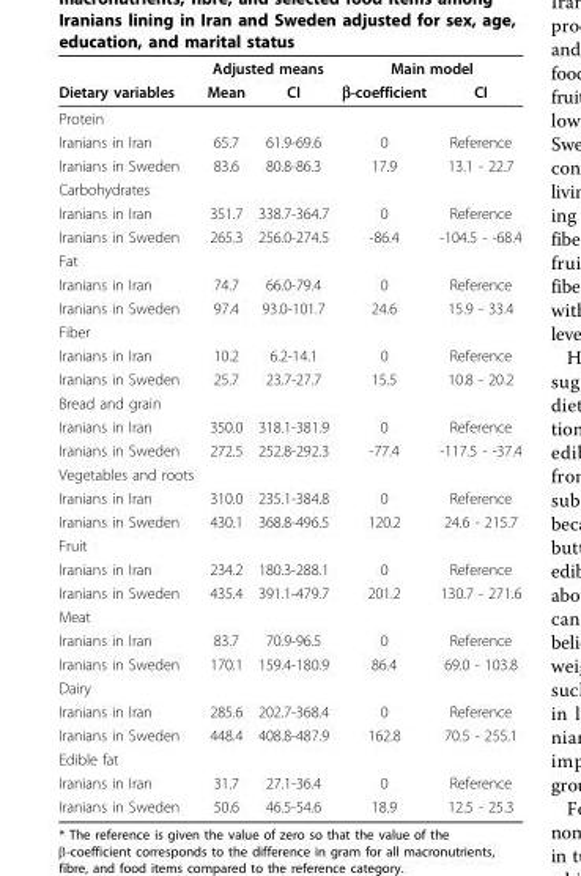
<table><thead><tr><td rowspan="2">Dietary variables</td><td colspan="2">Adjusted means</td><td colspan="2">Main model</td></tr><tr><td>Mean</td><td>CI</td><td>β-coefficient</td><td>CI</td></tr></thead><tbody><tr><td colspan="5">Protein</td></tr><tr><td>Iranians in Iran</td><td>65.7</td><td>61.9-69.6</td><td>0</td><td>Reference</td></tr><tr><td>Iranians in Sweden</td><td>83.6</td><td>80.8-86.3</td><td>17.9</td><td>13.1 - 22.7</td></tr><tr><td colspan="5">Carbohydrates</td></tr><tr><td>Iranians in Iran</td><td>351.7</td><td>338.7-364.7</td><td>0</td><td>Reference</td></tr><tr><td>Iranians in Sweden</td><td>265.3</td><td>256.0-274.5</td><td>-86.4</td><td>-104.5 - -68.4</td></tr><tr><td colspan="5">Fat</td></tr><tr><td>Iranians in Iran</td><td>74.7</td><td>66.0-79.4</td><td>0</td><td>Reference</td></tr><tr><td>Iranians in Sweden</td><td>97.4</td><td>93.0-101.7</td><td>24.6</td><td>15.9 - 33.4</td></tr><tr><td colspan="5">Fiber</td></tr><tr><td>Iranians in Iran</td><td>10.2</td><td>6.2-14.1</td><td>0</td><td>Reference</td></tr><tr><td>Iranians in Sweden</td><td>25.7</td><td>23.7-27.7</td><td>15.5</td><td>10.8 - 20.2</td></tr><tr><td colspan="5">Bread and grain</td></tr><tr><td>Iranians in Iran</td><td>350.0</td><td>318.1-381.9</td><td>0</td><td>Reference</td></tr><tr><td>Iranians in Sweden</td><td>272.5</td><td>252.8-292.3</td><td>-77.4</td><td>-117.5 - -37.4</td></tr><tr><td colspan="5">Vegetables and roots</td></tr><tr><td>Iranians in Iran</td><td>310.0</td><td>235.1-384.8</td><td>0</td><td>Reference</td></tr><tr><td>Iranians in Sweden</td><td>430.1</td><td>368.8-496.5</td><td>120.2</td><td>24.6 - 215.7</td></tr><tr><td colspan="5">Fruit</td></tr><tr><td>Iranians in Iran</td><td>234.2</td><td>180.3-288.1</td><td>0</td><td>Reference</td></tr><tr><td>Iranians in Sweden</td><td>435.4</td><td>391.1-479.7</td><td>201.2</td><td>130.7 - 271.6</td></tr><tr><td colspan="5">Meat</td></tr><tr><td>Iranians in Iran</td><td>83.7</td><td>70.9-96.5</td><td>0</td><td>Reference</td></tr><tr><td>Iranians in Sweden</td><td>170.1</td><td>159.4-180.9</td><td>86.4</td><td>69.0 - 103.8</td></tr><tr><td colspan="5">Dairy</td></tr><tr><td>Iranians in Iran</td><td>285.6</td><td>202.7-368.4</td><td>0</td><td>Reference</td></tr><tr><td>Iranians in Sweden</td><td>448.4</td><td>408.8-487.9</td><td>162.8</td><td>70.5 - 255.1</td></tr><tr><td colspan="5">Edible fat</td></tr><tr><td>Iranians in Iran</td><td>31.7</td><td>27.1-36.4</td><td>0</td><td>Reference</td></tr><tr><td>Iranians in Sweden</td><td>50.6</td><td>46.5-54.6</td><td>18.9</td><td>12.5 - 25.3</td></tr></tbody></table>